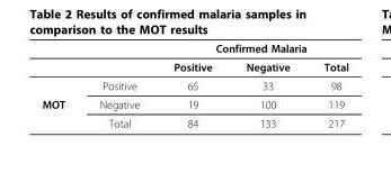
<table><thead><tr><td rowspan="2"></td><td rowspan="2"></td><td colspan="3">Confirmed Malaria</td></tr><tr><td>Positive</td><td>Negative</td><td>Total</td></tr></thead><tbody><tr><td></td><td>Positive</td><td>65</td><td>33</td><td>98</td></tr><tr><td rowspan="2">MOT</td><td>Negative</td><td>19</td><td>100</td><td>119</td></tr><tr><td>Total</td><td>84</td><td>133</td><td>217</td></tr></tbody></table>